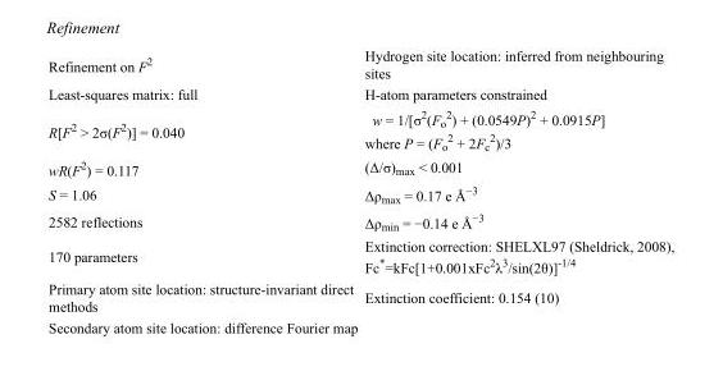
<table><tbody><tr><td>Refinement on F<sup>2</sup></td><td>Hydrogen site location: inferred from neighbouring sites</td></tr><tr><td>Least-squares matrix: full</td><td>H-atom parameters constrained</td></tr><tr><td>R[F<sup>2</sup> &gt; 2σ(F<sup>2</sup>)] = 0.040</td><td>w = 1/[σ<sup>2</sup>(F<sub>o</sub> <sup>2</sup>) + (0.0549P)<sup>2</sup> + 0.0915P] where P = (F<sub>o</sub> <sup>2</sup> + 2F<sub>c</sub> <sup>2</sup>)/3</td></tr><tr><td>wR(F<sup>2</sup>) = 0.117</td><td>(Δ/σ)<sub>max</sub> &lt; 0.001</td></tr><tr><td>S = 1.06</td><td>Δρ<sub>max</sub> = 0.17 e Å<sup>−3</sup></td></tr><tr><td>2582 reflections</td><td>Δρ<sub>min</sub> = −0.14 e Å<sup>−3</sup></td></tr><tr><td>170 parameters</td><td>Extinction correction: SHELXL97 (Sheldrick, 2008), Fc*=kFc[1+0.001xFc<sup>2</sup>λ<sup>3</sup>/sin(2θ)]<sup>-1/4</sup></td></tr><tr><td>Primary atom site location: structure-invariant direct methods</td><td>Extinction coefficient: 0.154 (10)</td></tr><tr><td>Secondary atom site location: difference Fourier map</td><td></td></tr></tbody></table>